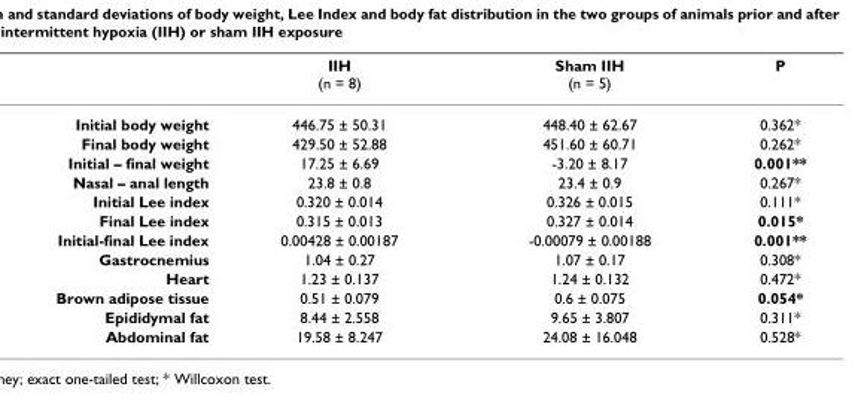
<table><thead><tr><td></td><td>IIH (n = 8)</td><td>Sham IIH (n = 5)</td><td>P</td></tr></thead><tbody><tr><td>Initial body weight</td><td>446.75 ± 50.31</td><td>448.40 ± 62.67</td><td>0.362*</td></tr><tr><td>Final body weight</td><td>429.50 ± 52.88</td><td>451.60 ± 60.71</td><td>0.262*</td></tr><tr><td>Initial – final weight</td><td>17.25 ± 6.69</td><td>-3.20 ± 8.17</td><td>0.001**</td></tr><tr><td>Nasal – anal length</td><td>23.8 ± 0.8</td><td>23.4 ± 0.9</td><td>0.267*</td></tr><tr><td>Initial Lee index</td><td>0.320 ± 0.014</td><td>0.326 ± 0.015</td><td>0.111*</td></tr><tr><td>Final Lee index</td><td>0.315 ± 0.013</td><td>0.327 ± 0.014</td><td>0.015*</td></tr><tr><td>Initial-final Lee index</td><td>0.00428 ± 0.00187</td><td>-0.00079 ± 0.00188</td><td>0.001**</td></tr><tr><td>Gastrocnemius</td><td>1.04 ± 0.27</td><td>1.07 ± 0.17</td><td>0.308*</td></tr><tr><td>Heart</td><td>1.23 ± 0.137</td><td>1.24 ± 0.132</td><td>0.472*</td></tr><tr><td>Brown adipose tissue</td><td>0.51 ± 0.079</td><td>0.6 ± 0.075</td><td>0.054*</td></tr><tr><td>Epididymal fat</td><td>8.44 ± 2.558</td><td>9.65 ± 3.807</td><td>0.311*</td></tr><tr><td>Abdominal fat</td><td>19.58 ± 8.247</td><td>24.08 ± 16.048</td><td>0.528*</td></tr></tbody></table>